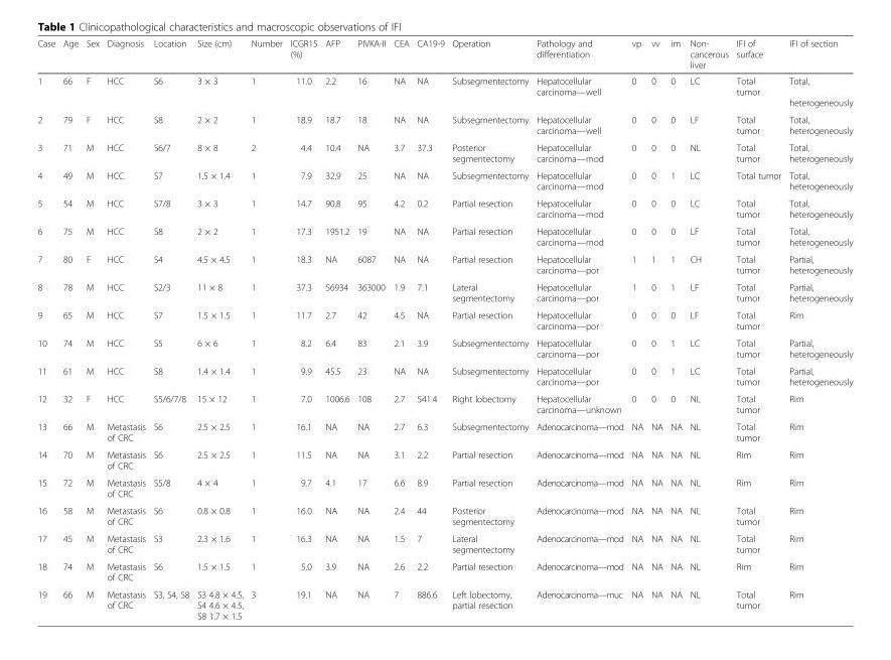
<table><thead><tr><td>Case</td><td>Age</td><td>Sex</td><td>Diagnosis</td><td>Location</td><td>Size (cm)</td><td>Number</td><td>ICGR15 (%)</td><td>AFP</td><td>PIVKA-II</td><td>CEA</td><td>CA19-9</td><td>Operation</td><td>Pathology and differentiation</td><td>vp</td><td>vv</td><td>im</td><td>Non- cancerous liver</td><td>IFI of surface</td><td>IFI of section</td></tr></thead><tbody><tr><td>1</td><td>66</td><td>F</td><td>HCC</td><td>S6</td><td>3 × 3</td><td>1</td><td>11.0</td><td>2.2</td><td>16</td><td>NA</td><td>NA</td><td>Subsegmentectomy</td><td>Hepatocellular carcinoma—well</td><td>0</td><td>0</td><td>0</td><td>LC</td><td>Total tumor</td><td>Total, heterogeneously</td></tr><tr><td>2</td><td>79</td><td>F</td><td>HCC</td><td>S8</td><td>2 × 2</td><td>1</td><td>18.9</td><td>18.7</td><td>18</td><td>NA</td><td>NA</td><td>Subsegmentectomy</td><td>Hepatocellular carcinoma—well</td><td>0</td><td>0</td><td>0</td><td>LF</td><td>Total tumor</td><td>Total, heterogeneously</td></tr><tr><td>3</td><td>71</td><td>M</td><td>HCC</td><td>S6/7</td><td>8 × 8</td><td>2</td><td>4.4</td><td>10.4</td><td>NA</td><td>3.7</td><td>37.3</td><td>Posterior segmentectomy</td><td>Hepatocellular carcinoma—mod</td><td>0</td><td>0</td><td>0</td><td>NL</td><td>Total tumor</td><td>Total, heterogeneously</td></tr><tr><td>4</td><td>49</td><td>M</td><td>HCC</td><td>S7</td><td>1.5 × 1.4</td><td>1</td><td>7.9</td><td>32.9</td><td>25</td><td>NA</td><td>NA</td><td>Subsegmentectomy</td><td>Hepatocellular carcinoma—mod</td><td>0</td><td>0</td><td>1</td><td>LC</td><td>Total tumor</td><td>Total, heterogeneously</td></tr><tr><td>5</td><td>54</td><td>M</td><td>HCC</td><td>S7/8</td><td>3 × 3</td><td>1</td><td>14.7</td><td>90.8</td><td>95</td><td>4.2</td><td>0.2</td><td>Partial resection</td><td>Hepatocellular carcinoma—mod</td><td>0</td><td>0</td><td>0</td><td>LC</td><td>Total tumor</td><td>Total, heterogeneously</td></tr><tr><td>6</td><td>75</td><td>M</td><td>HCC</td><td>S8</td><td>2 × 2</td><td>1</td><td>17.3</td><td>1951.2</td><td>19</td><td>NA</td><td>NA</td><td>Partial resection</td><td>Hepatocellular carcinoma—mod</td><td>0</td><td>0</td><td>0</td><td>LF</td><td>Total tumor</td><td>Total, heterogeneously</td></tr><tr><td>7</td><td>80</td><td>F</td><td>HCC</td><td>S4</td><td>4.5 × 4.5</td><td>1</td><td>18.3</td><td>NA</td><td>6087</td><td>NA</td><td>NA</td><td>Partial resection</td><td>Hepatocellular carcinoma—por</td><td>1</td><td>1</td><td>1</td><td>CH</td><td>Total tumor</td><td>Partial, heterogeneously</td></tr><tr><td>8</td><td>78</td><td>M</td><td>HCC</td><td>S2/3</td><td>11 × 8</td><td>1</td><td>37.3</td><td>56934</td><td>363000</td><td>1.9</td><td>7.1</td><td>Lateral segmentectomy</td><td>Hepatocellular carcinoma—por</td><td>1</td><td>0</td><td>1</td><td>LF</td><td>Total tumor</td><td>Partial, heterogeneously</td></tr><tr><td>9</td><td>65</td><td>M</td><td>HCC</td><td>S7</td><td>1.5 × 1.5</td><td>1</td><td>11.7</td><td>2.7</td><td>42</td><td>4.5</td><td>NA</td><td>Partial resection</td><td>Hepatocellular carcinoma—por</td><td>0</td><td>0</td><td>0</td><td>LF</td><td>Total tumor</td><td>Rim</td></tr><tr><td>10</td><td>74</td><td>M</td><td>HCC</td><td>S5</td><td>6 × 6</td><td>1</td><td>8.2</td><td>6.4</td><td>83</td><td>2.1</td><td>3.9</td><td>Subsegmentectomy</td><td>Hepatocellular carcinoma—por</td><td>0</td><td>0</td><td>1</td><td>LC</td><td>Total tumor</td><td>Partial, heterogeneously</td></tr><tr><td>11</td><td>61</td><td>M</td><td>HCC</td><td>S8</td><td>1.4 × 1.4</td><td>1</td><td>9.9</td><td>45.5</td><td>23</td><td>NA</td><td>NA</td><td>Subsegmentectomy</td><td>Hepatocellular carcinoma—por</td><td>0</td><td>0</td><td>1</td><td>LC</td><td>Total tumor</td><td>Partial, heterogeneously</td></tr><tr><td>12</td><td>32</td><td>F</td><td>HCC</td><td>S5/6/7/8</td><td>15 × 12</td><td>1</td><td>7.0</td><td>1006.6</td><td>108</td><td>2.7</td><td>541.4</td><td>Right lobectomy</td><td>Hepatocellular carcinoma—unknown</td><td>0</td><td>0</td><td>0</td><td>NL</td><td>Total tumor</td><td>Rim</td></tr><tr><td>13</td><td>66</td><td>M</td><td>Metastasis of CRC</td><td>S6</td><td>2.5 × 2.5</td><td>1</td><td>16.1</td><td>NA</td><td>NA</td><td>2.7</td><td>6.3</td><td>Subsegmentectomy</td><td>Adenocarcinoma—mod</td><td>NA</td><td>NA</td><td>NA</td><td>NL</td><td>Total tumor</td><td>Rim</td></tr><tr><td>14</td><td>70</td><td>M</td><td>Metastasis of CRC</td><td>S6</td><td>2.5 × 2.5</td><td>1</td><td>11.5</td><td>NA</td><td>NA</td><td>3.1</td><td>2.2</td><td>Partial resection</td><td>Adenocarcinoma—mod</td><td>NA</td><td>NA</td><td>NA</td><td>NL</td><td>Rim</td><td>Rim</td></tr><tr><td>15</td><td>72</td><td>M</td><td>Metastasis of CRC</td><td>S5/8</td><td>4 × 4</td><td>1</td><td>9.7</td><td>4.1</td><td>17</td><td>6.6</td><td>8.9</td><td>Partial resection</td><td>Adenocarcinoma—mod</td><td>NA</td><td>NA</td><td>NA</td><td>NL</td><td>Rim</td><td>Rim</td></tr><tr><td>16</td><td>58</td><td>M</td><td>Metastasis of CRC</td><td>S6</td><td>0.8 × 0.8</td><td>1</td><td>16.0</td><td>NA</td><td>NA</td><td>2.4</td><td>44</td><td>Posterior segmentectomy</td><td>Adenocarcinoma—mod</td><td>NA</td><td>NA</td><td>NA</td><td>NL</td><td>Total tumor</td><td>Rim</td></tr><tr><td>17</td><td>45</td><td>M</td><td>Metastasis of CRC</td><td>S3</td><td>2.3 × 1.6</td><td>1</td><td>16.3</td><td>NA</td><td>NA</td><td>1.5</td><td>7</td><td>Lateral segmentectomy</td><td>Adenocarcinoma—mod</td><td>NA</td><td>NA</td><td>NA</td><td>NL</td><td>Total tumor</td><td>Rim</td></tr><tr><td>18</td><td>74</td><td>M</td><td>Metastasis of CRC</td><td>S6</td><td>1.5 × 1.5</td><td>1</td><td>5.0</td><td>3.9</td><td>NA</td><td>2.6</td><td>2.2</td><td>Partial resection</td><td>Adenocarcinoma—mod</td><td>NA</td><td>NA</td><td>NA</td><td>NL</td><td>Rim</td><td>Rim</td></tr><tr><td>19</td><td>66</td><td>M</td><td>Metastasis of CRC</td><td>S3, S4, S8</td><td>S3 4.8 × 4.5, S4 4.6 × 4.5, S8 1.7 × 1.5</td><td>3</td><td>19.1</td><td>NA</td><td>NA</td><td>7</td><td>886.6</td><td>Left lobectomy, partial resection</td><td>Adenocarcinoma—muc</td><td>NA</td><td>NA</td><td>NA</td><td>NL</td><td>Total tumor</td><td>Rim</td></tr></tbody></table>